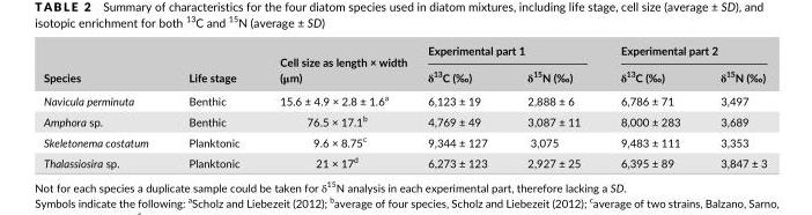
<table><thead><tr><td rowspan="2">Species</td><td rowspan="2">Life stage</td><td rowspan="2">Cell size as length × width (μm)</td><td colspan="2">Experimental part 1</td><td colspan="2">Experimental part 2</td></tr><tr><td>δ<sup>13</sup>C (‰)</td><td>δ<sup>15</sup>N (‰)</td><td>δ<sup>13</sup>C (‰)</td><td>δ<sup>15</sup>N (‰)</td></tr></thead><tbody><tr><td>Navicula perminuta</td><td>Benthic</td><td>15.6 ± 4.9 × 2.8 ± 1.6<sup>a</sup></td><td>6,123 ± 19</td><td>2,888 ± 6</td><td>6,786 ± 71</td><td>3,497</td></tr><tr><td>Amphora sp.</td><td>Benthic</td><td>76.5 × 17.1<sup>b</sup></td><td>4,769 ± 49</td><td>3,087 ± 11</td><td>8,000 ± 283</td><td>3,689</td></tr><tr><td>Skeletonema costatum</td><td>Planktonic</td><td>9.6 × 8.75<sup>c</sup></td><td>9,344 ± 127</td><td>3,075</td><td>9,483 ± 111</td><td>3,353</td></tr><tr><td>Thalassiosira sp.</td><td>Planktonic</td><td>21 × 17<sup>d</sup></td><td>6,273 ± 123</td><td>2,927 ± 25</td><td>6,395 ± 89</td><td>3,847 ± 3</td></tr></tbody></table>